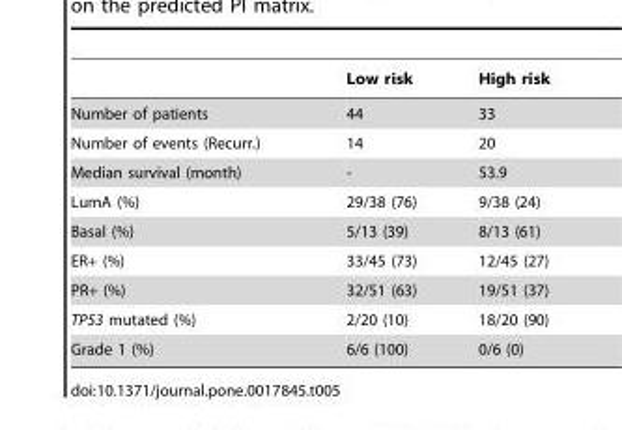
<table><thead><tr><td></td><td>Low risk</td><td>High risk</td></tr></thead><tbody><tr><td>Number of patients</td><td>44</td><td>33</td></tr><tr><td>Number of events (Recurr.)</td><td>14</td><td>20</td></tr><tr><td>Median survival (month)</td><td>-</td><td>53.9</td></tr><tr><td>LumA (%)</td><td>29/38 (76)</td><td>9/38 (24)</td></tr><tr><td>Basal (%)</td><td>5/13 (39)</td><td>8/13 (61)</td></tr><tr><td>ER+ (%)</td><td>33/45 (73)</td><td>12/45 (27)</td></tr><tr><td>PR+ (%)</td><td>32/51 (63)</td><td>19/51 (37)</td></tr><tr><td>TP53 mutated (%)</td><td>2/20 (10)</td><td>18/20 (90)</td></tr><tr><td>Grade 1 (%)</td><td>6/6 (100)</td><td>0/6 (0)</td></tr></tbody></table>